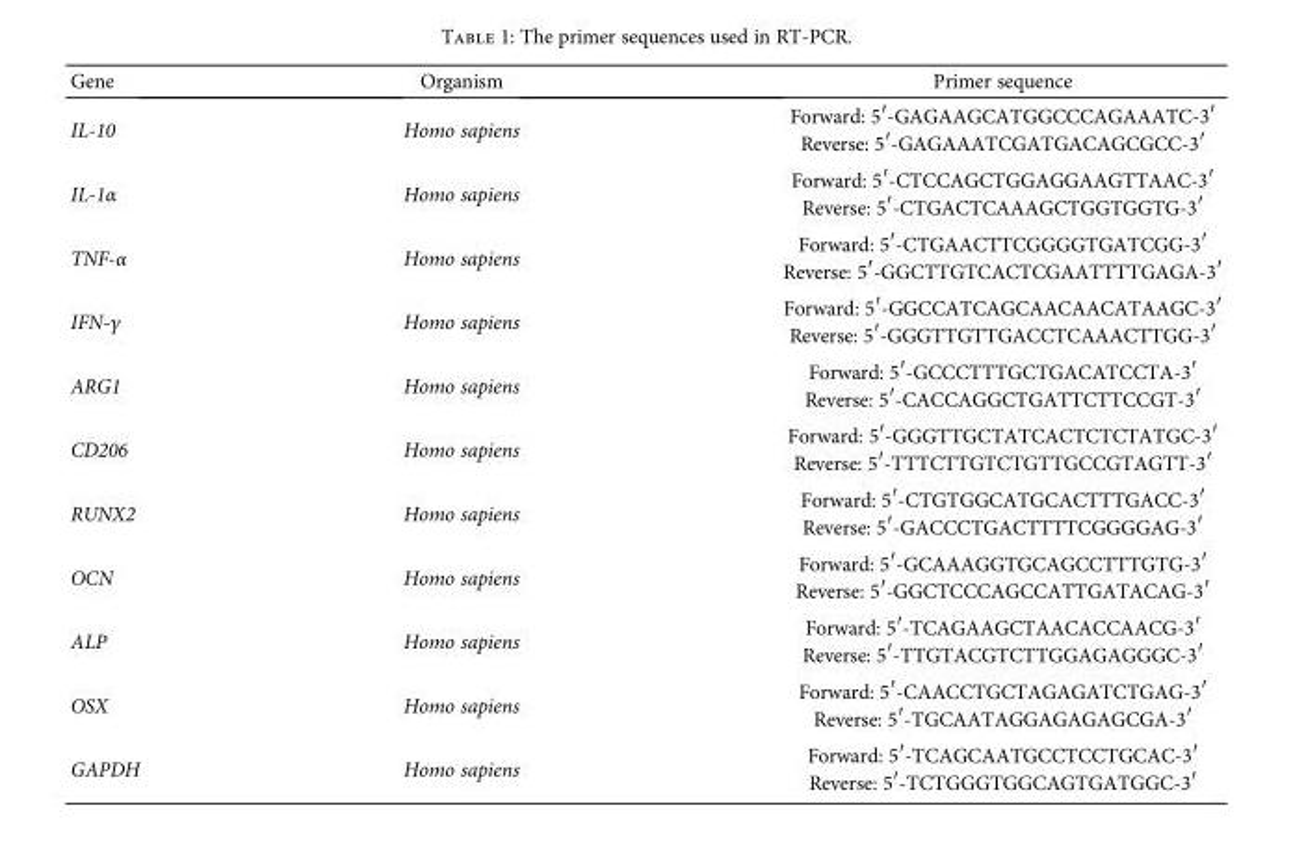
<table><thead><tr><td>Gene</td><td>Organism</td><td>Primer sequence</td></tr></thead><tbody><tr><td>IL-10</td><td>Homo sapiens</td><td>Forward: 5′-GAGAAGCATGGCCCAGAAATC-3′ Reverse: 5′-GAGAAATCGATGACAGCGCC-3′</td></tr><tr><td>IL-1α</td><td>Homo sapiens</td><td>Forward: 5′-CTCCAGCTGGAGGAAGTTAAC-3′ Reverse: 5′-CTGACTCAAAGCTGGTGGTG-3′</td></tr><tr><td>TNF-α</td><td>Homo sapiens</td><td>Forward: 5′-CTGAACTTCGGGGTGATCGG-3′ Reverse: 5′-GGCTTGTCACTCGAATTTTGAGA-3′</td></tr><tr><td>IFN-γ</td><td>Homo sapiens</td><td>Forward: 5′-GGCCATCAGCAACAACATAAGC-3′ Reverse: 5′-GGGTTGTTGACCTCAAACTTGG-3′</td></tr><tr><td>ARG1</td><td>Homo sapiens</td><td>Forward: 5′-GCCCTTTGCTGACATCCTA-3′ Reverse: 5′-CACCAGGCTGATTCTTCCGT-3′</td></tr><tr><td>CD206</td><td>Homo sapiens</td><td>Forward: 5′-GGGTTGCTATCACTCTCTATGC-3′ Reverse: 5′-TTTCTTGTCTGTTGCCGTAGTT-3′</td></tr><tr><td>RUNX2</td><td>Homo sapiens</td><td>Forward: 5′-CTGTGGCATGCACTTTGACC-3′ Reverse: 5′-GACCCTGACTTTTCGGGGAG-3′</td></tr><tr><td>OCN</td><td>Homo sapiens</td><td>Forward: 5′-GCAAAGGTGCAGCCTTTGTG-3′ Reverse: 5′-GGCTCCCAGCCATTGATACAG-3′</td></tr><tr><td>ALP</td><td>Homo sapiens</td><td>Forward: 5′-TCAGAAGCTAACACCAACG-3′ Reverse: 5′-TTGTACGTCTTGGAGAGGGC-3′</td></tr><tr><td>OSX</td><td>Homo sapiens</td><td>Forward: 5′-CAACCTGCTAGAGATCTGAG-3′ Reverse: 5′-TGCAATAGGAGAGAGCGA-3′</td></tr><tr><td>GAPDH</td><td>Homo sapiens</td><td>Forward: 5′-TCAGCAATGCCTCCTGCAC-3′ Reverse: 5′-TCTGGGTGGCAGTGATGGC-3′</td></tr></tbody></table>